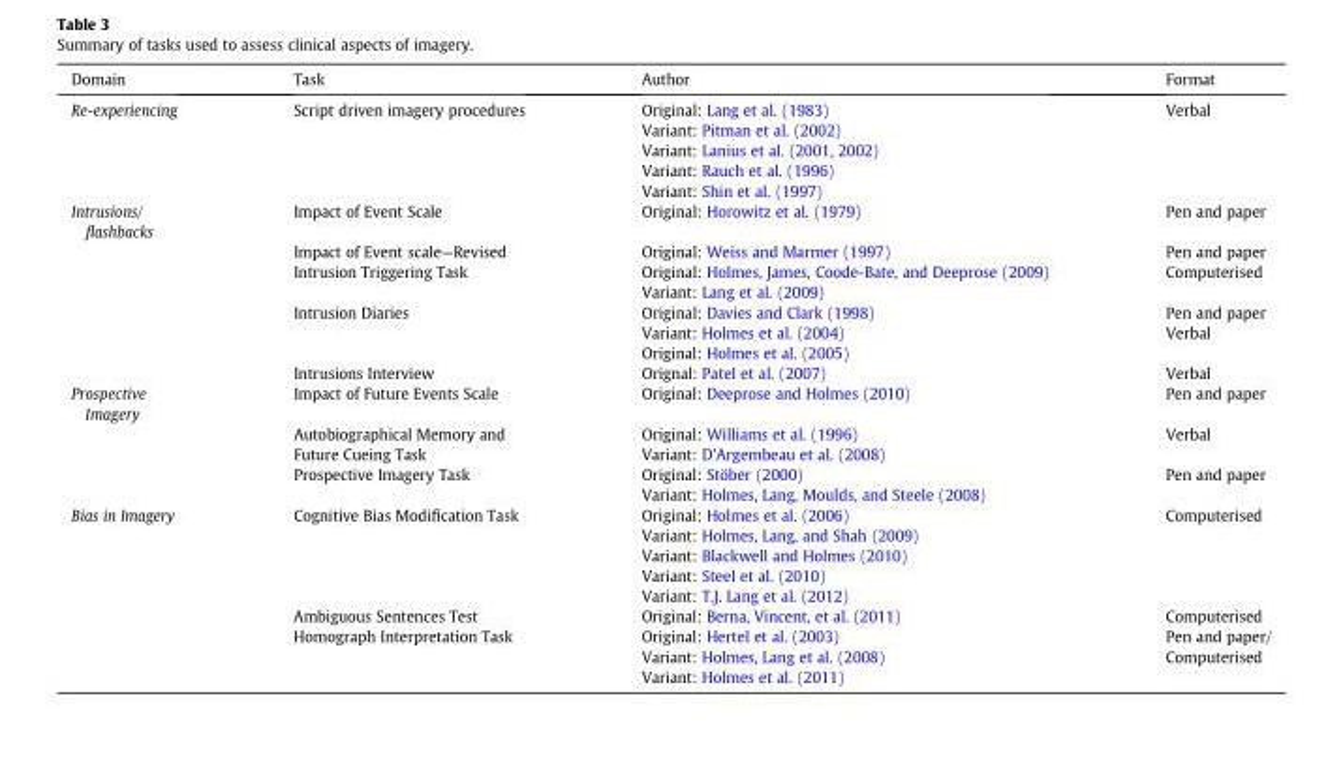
<table><thead><tr><td>Domain</td><td>Task</td><td>Author</td><td>Format</td></tr></thead><tbody><tr><td>Re-experiencing</td><td>Script driven imagery procedures</td><td>Original: Lang et al. (1983) Variant: Pitman et al. (2002) Variant: Lanius et al. (2001, 2002) Variant: Rauch et al. (1996) Variant: Shin et al. (1997)</td><td>Verbal</td></tr><tr><td rowspan="5">Intrusions/ flashbacks</td><td>Impact of Event Scale</td><td>Original: Horowitz et al. (1979)</td><td>Pen and paper</td></tr><tr><td>Impact of Event scale—Revised</td><td>Original: Weiss and Marmer (1997)</td><td>Pen and paper</td></tr><tr><td>Intrusion Triggering Task</td><td>Original: Holmes, James, Coode-Bate, and Deeprose (2009) Variant: Lang et al. (2009)</td><td>Computerised</td></tr><tr><td>Intrusion Diaries</td><td>Original: Davies and Clark (1998) Variant: Holmes et al. (2004) Original: Holmes et al. (2005)</td><td>Pen and paper Verbal</td></tr><tr><td>Intrusions Interview</td><td>Orignal: Patel et al. (2007)</td><td>Verbal</td></tr><tr><td rowspan="3">Prospective Imagery</td><td>Impact of Future Events Scale</td><td>Original: Deeprose and Holmes (2010)</td><td>Pen and paper</td></tr><tr><td>Autobiographical Memory and Future Cueing Task</td><td>Original: Williams et al. (1996) Variant: D&#x27;Argembeau et al. (2008)</td><td>Verbal</td></tr><tr><td>Prospective Imagery Task</td><td>Original: Stöber (2000) Variant: Holmes, Lang, Moulds, and Steele (2008)</td><td>Pen and paper</td></tr><tr><td rowspan="3">Bias in Imagery</td><td>Cognitive Bias Modification Task</td><td>Original: Holmes et al. (2006) Variant: Holmes, Lang, and Shah (2009) Variant: Blackwell and Holmes (2010) Variant: Steel et al. (2010) Variant: T.J. Lang et al. (2012)</td><td>Computerised</td></tr><tr><td>Ambiguous Sentences Test</td><td>Original: Berna, Vincent, et al. (2011)</td><td>Computerised</td></tr><tr><td>Homograph Interpretation Task</td><td>Original: Hertel et al. (2003) Variant: Holmes, Lang et al. (2008) Variant: Holmes et al. (2011)</td><td>Pen and paper/ Computerised</td></tr></tbody></table>